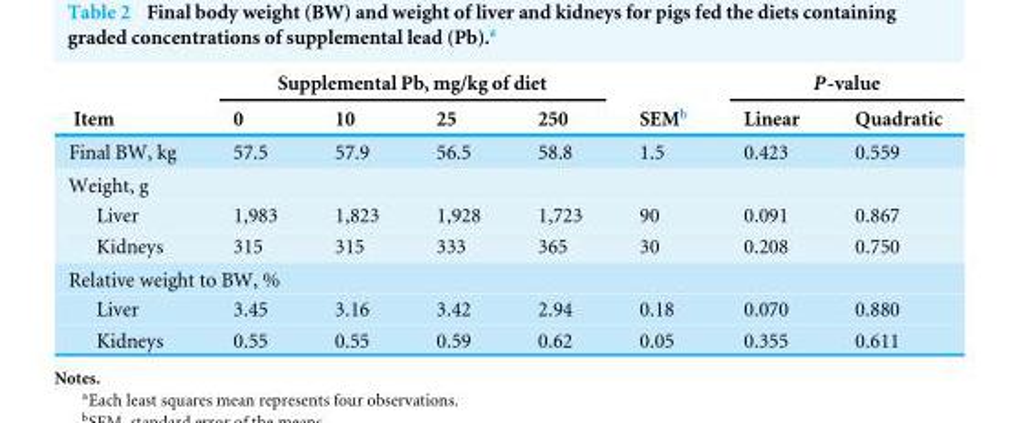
<table><thead><tr><td rowspan="2">Item</td><td colspan="4">Supplemental Pb, mg/kg of diet</td><td rowspan="2">SEM<sup>b</sup></td><td colspan="2">P-value</td></tr><tr><td>0</td><td>10</td><td>25</td><td>250</td><td>Linear</td><td>Quadratic</td></tr></thead><tbody><tr><td>Final BW, kg</td><td>57.5</td><td>57.9</td><td>56.5</td><td>58.8</td><td>1.5</td><td>0.423</td><td>0.559</td></tr><tr><td colspan="8">Weight, g</td></tr><tr><td>Liver</td><td>1,983</td><td>1,823</td><td>1,928</td><td>1,723</td><td>90</td><td>0.091</td><td>0.867</td></tr><tr><td>Kidneys</td><td>315</td><td>315</td><td>333</td><td>365</td><td>30</td><td>0.208</td><td>0.750</td></tr><tr><td colspan="8">Relative weight to BW, %</td></tr><tr><td>Liver</td><td>3.45</td><td>3.16</td><td>3.42</td><td>2.94</td><td>0.18</td><td>0.070</td><td>0.880</td></tr><tr><td>Kidneys</td><td>0.55</td><td>0.55</td><td>0.59</td><td>0.62</td><td>0.05</td><td>0.355</td><td>0.611</td></tr></tbody></table>